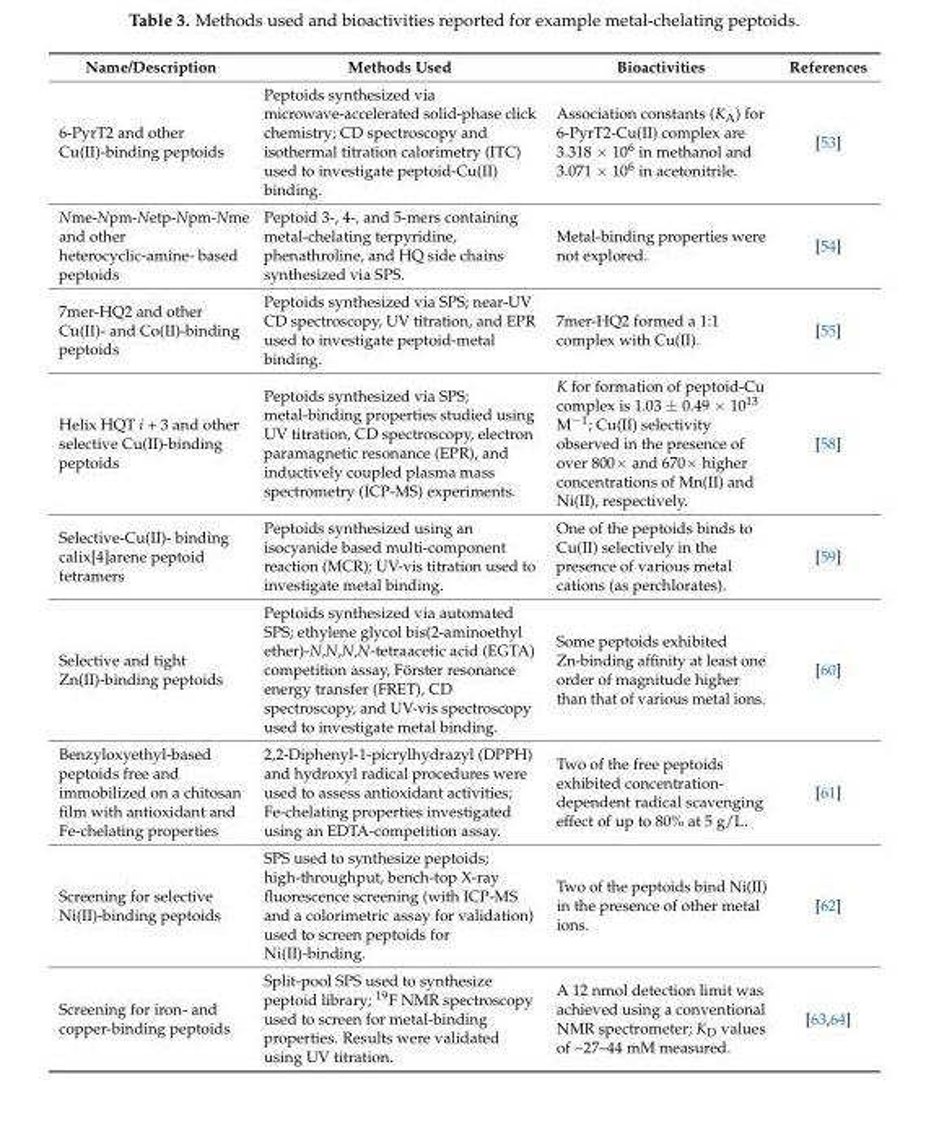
<table><thead><tr><td>Name/Description</td><td>Methods Used</td><td>Bioactivities</td><td>References</td></tr></thead><tbody><tr><td>6-PyrT2 and other Cu(II)-binding peptoids</td><td>Peptoids synthesized via microwave-accelerated solid-phase click chemistry; CD spectroscopy and isothermal titration calorimetry (ITC) used to investigate peptoid-Cu(II) binding.</td><td>Association constants (K<sub>A</sub>) for 6-PyrT2-Cu(II) complex are 3.318 × 10<sup>6</sup> in methanol and 3.071 × 10<sup>6</sup> in acetonitrile.</td><td>[53]</td></tr><tr><td>Nme-Npm-Netp-Npm-Nme and other heterocyclic-amine- based peptoids</td><td>Peptoid 3-, 4-, and 5-mers containing metal-chelating terpyridine, phenathroline, and HQ side chains synthesized via SPS.</td><td>Metal-binding properties were not explored.</td><td>[54]</td></tr><tr><td>7mer-HQ2 and other Cu(II)- and Co(II)-binding peptoids</td><td>Peptoids synthesized via SPS; near-UV CD spectroscopy, UV titration, and EPR used to investigate peptoid-metal binding.</td><td>7mer-HQ2 formed a 1:1 complex with Cu(II).</td><td>[55]</td></tr><tr><td>Helix HQT i + 3 and other selective Cu(II)-binding peptoids</td><td>Peptoids synthesized via SPS; metal-binding properties studied using UV titration, CD spectroscopy, electron paramagnetic resonance (EPR), and inductively coupled plasma mass spectrometry (ICP-MS) experiments.</td><td>K for formation of peptoid-Cu complex is 1.03 ± 0.49 × 10<sup>13</sup> M<sup>−1</sup>; Cu(II) selectivity observed in the presence of over 800× and 670× higher concentrations of Mn(II) and Ni(II), respectively.</td><td>[58]</td></tr><tr><td>Selective-Cu(II)- binding calix[4]arene peptoid tetramers</td><td>Peptoids synthesized using an isocyanide based multi-component reaction (MCR); UV-vis titration used to investigate metal binding.</td><td>One of the peptoids binds to Cu(II) selectively in the presence of various metal cations (as perchlorates).</td><td>[59]</td></tr><tr><td>Selective and tight Zn(II)-binding peptoids</td><td>Peptoids synthesized via automated SPS; ethylene glycol bis(2-aminoethyl ether)-N,N,N,N-tetraacetic acid (EGTA) competition assay, Förster resonance energy transfer (FRET), CD spectroscopy, and UV-vis spectroscopy used to investigate metal binding.</td><td>Some peptoids exhibited Zn-binding affinity at least one order of magnitude higher than that of various metal ions.</td><td>[60]</td></tr><tr><td>Benzyloxyethyl-based peptoids free and immobilized on a chitosan film with antioxidant and Fe-chelating properties</td><td>2,2-Diphenyl-1-picrylhydrazyl (DPPH) and hydroxyl radical procedures were used to assess antioxidant activities; Fe-chelating properties investigated using an EDTA-competition assay.</td><td>Two of the free peptoids exhibited concentration- dependent radical scavenging effect of up to 80% at 5 g/L.</td><td>[61]</td></tr><tr><td>Screening for selective Ni(II)-binding peptoids</td><td>SPS used to synthesize peptoids; high-throughput, bench-top X-ray fluorescence screening (with ICP-MS and a colorimetric assay for validation) used to screen peptoids for Ni(II)-binding.</td><td>Two of the peptoids bind Ni(II) in the presence of other metal ions.</td><td>[62]</td></tr><tr><td>Screening for iron- and copper-binding peptoids</td><td>Split-pool SPS used to synthesize peptoid library; <sup>19</sup>F NMR spectroscopy used to screen for metal-binding properties. Results were validated using UV titration.</td><td>A 12 nmol detection limit was achieved using a conventional NMR spectrometer; K<sub>D</sub> values of ~27–44 mM measured.</td><td>[63,64]</td></tr></tbody></table>